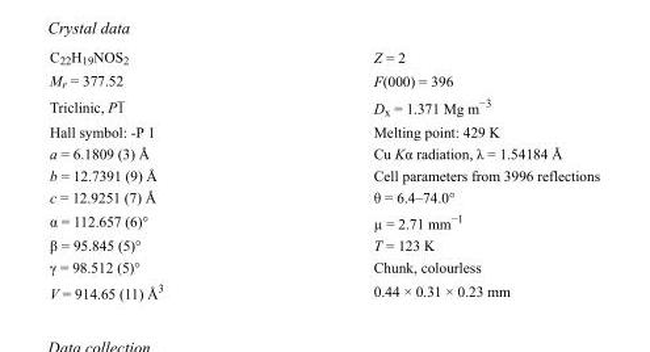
<table><tbody><tr><td>C<sub>22</sub>H<sub>19</sub>NOS<sub>2</sub></td><td>Z = 2</td></tr><tr><td>M<sub>r</sub> = 377.52</td><td>F(000) = 396</td></tr><tr><td>Triclinic, P1</td><td>D<sub>x</sub> = 1.371 Mg m<sup>−3</sup></td></tr><tr><td>Hall symbol: -P 1</td><td>Melting point: 429 K</td></tr><tr><td>a = 6.1809 (3) Å</td><td>Cu Kα radiation, λ = 1.54184 Å</td></tr><tr><td>b = 12.7391 (9) Å</td><td>Cell parameters from 3996 reflections</td></tr><tr><td>c = 12.9251 (7) Å</td><td>θ = 6.4–74.0°</td></tr><tr><td>α = 112.657 (6)°</td><td>µ = 2.71 mm<sup>−1</sup></td></tr><tr><td>β = 95.845 (5)°</td><td>T = 123 K</td></tr><tr><td>γ = 98.512 (5)°</td><td>Chunk, colourless</td></tr><tr><td>V = 914.65 (11) Å<sup>3</sup></td><td>0.44 × 0.31 × 0.23 mm</td></tr></tbody></table>